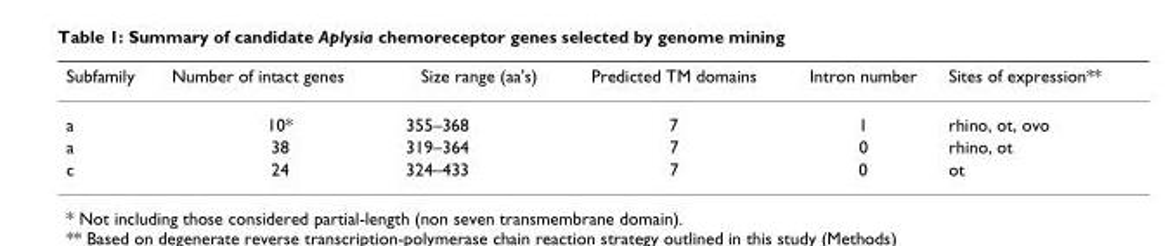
<table><thead><tr><td>Subfamily</td><td>Number of intact genes</td><td>Size range (aa&#x27;s)</td><td>Predicted TM domains</td><td>Intron number</td><td>Sites of expression**</td></tr></thead><tbody><tr><td>a</td><td>10*</td><td>355–368</td><td>7</td><td>1</td><td>rhino, ot, ovo</td></tr><tr><td>a</td><td>38</td><td>319–364</td><td>7</td><td>0</td><td>rhino, ot</td></tr><tr><td>c</td><td>24</td><td>324–433</td><td>7</td><td>0</td><td>ot</td></tr></tbody></table>